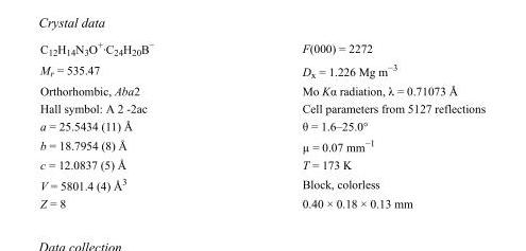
<table><tbody><tr><td>C<sub>12</sub>H<sub>14</sub>N<sub>3</sub>O<sup>+</sup>·C<sub>24</sub>H<sub>20</sub>B<sup>−</sup></td><td>F(000) = 2272</td></tr><tr><td>M<sub>r</sub> = 535.47</td><td>D<sub>x</sub> = 1.226 Mg m<sup>−3</sup></td></tr><tr><td>Orthorhombic, Aba2</td><td>Mo Kα radiation, λ = 0.71073 Å</td></tr><tr><td>Hall symbol: A 2 -2ac</td><td>Cell parameters from 5127 reflections</td></tr><tr><td>a = 25.5434 (11) Å</td><td>θ = 1.6–25.0°</td></tr><tr><td>b = 18.7954 (8) Å</td><td>µ = 0.07 mm<sup>−1</sup></td></tr><tr><td>c = 12.0837 (5) Å</td><td>T = 173 K</td></tr><tr><td>V = 5801.4 (4) Å<sup>3</sup></td><td>Block, colorless</td></tr><tr><td>Z = 8</td><td>0.40 × 0.18 × 0.13 mm</td></tr></tbody></table>